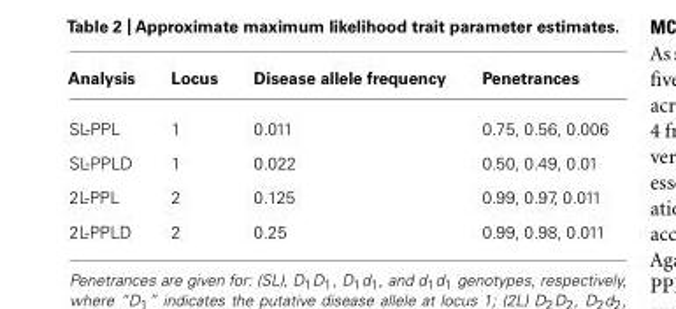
<table><thead><tr><td>Analysis</td><td>Locus</td><td>Disease allele frequency</td><td>Penetrances</td></tr></thead><tbody><tr><td>SL-PPL</td><td>1</td><td>0.011</td><td>0.75, 0.56, 0.006</td></tr><tr><td>SL-PPLD</td><td>1</td><td>0.022</td><td>0.50, 0.49, 0.01</td></tr><tr><td>2L-PPL</td><td>2</td><td>0.125</td><td>0.99, 0.97, 0.011</td></tr><tr><td>2L-PPLD</td><td>2</td><td>0.25</td><td>0.99, 0.98, 0.011</td></tr></tbody></table>